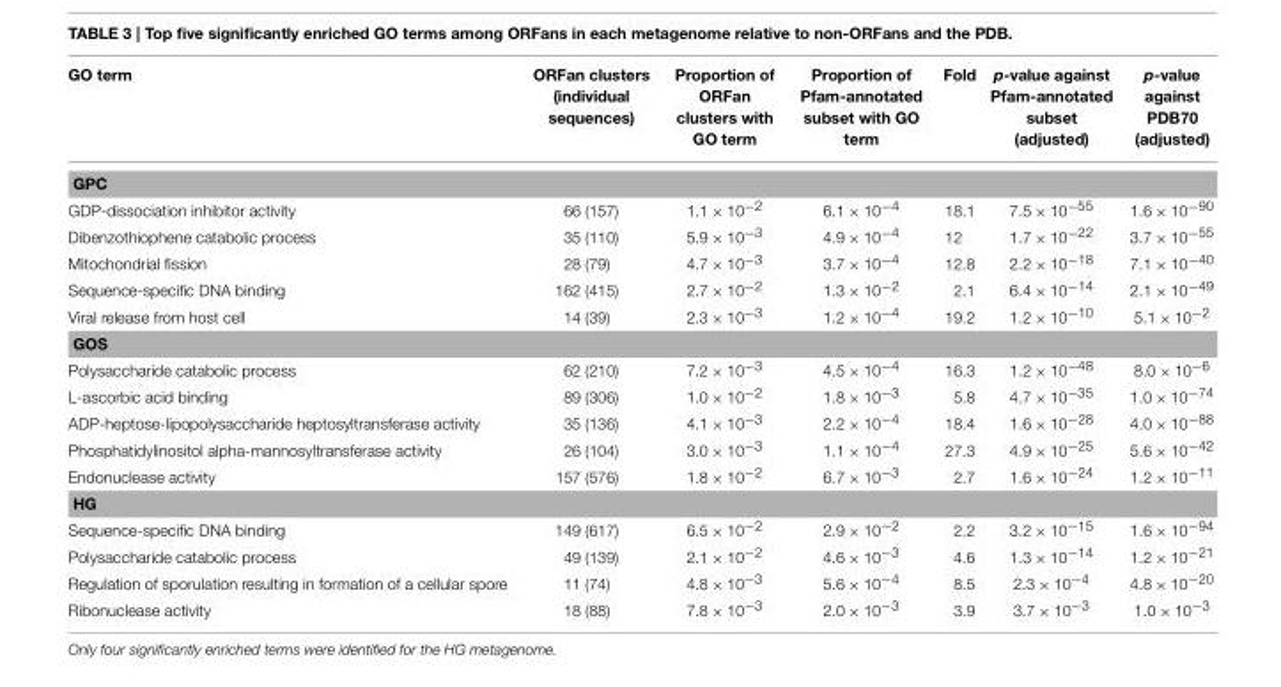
<table><thead><tr><td>GO term</td><td>ORFan clusters (individual sequences)</td><td>Proportion of ORFan clusters with GO term</td><td>Proportion of Pfam-annotated subset with GO term</td><td>Fold</td><td>p-value against Pfam-annotated subset (adjusted)</td><td>p-value against PDB70 (adjusted)</td></tr></thead><tbody><tr><td colspan="7">GPC</td></tr><tr><td>GDP-dissociation inhibitor activity</td><td>66 (157)</td><td>1.1 × 10<sup>−2</sup></td><td>6.1 × 10<sup>−4</sup></td><td>18.1</td><td>7.5 × 10<sup>−55</sup></td><td>1.6 × 10<sup>−90</sup></td></tr><tr><td>Dibenzothiophene catabolic process</td><td>35 (110)</td><td>5.9 × 10<sup>−3</sup></td><td>4.9 × 10<sup>−4</sup></td><td>12</td><td>1.7 × 10<sup>−22</sup></td><td>3.7 × 10<sup>−55</sup></td></tr><tr><td>Mitochondrial fission</td><td>28 (79)</td><td>4.7 × 10<sup>−3</sup></td><td>3.7 × 10<sup>−4</sup></td><td>12.8</td><td>2.2 × 10<sup>−18</sup></td><td>7.1 × 10<sup>−40</sup></td></tr><tr><td>Sequence-specific DNA binding</td><td>162 (415)</td><td>2.7 × 10<sup>−2</sup></td><td>1.3 × 10<sup>−2</sup></td><td>2.1</td><td>6.4 × 10<sup>−14</sup></td><td>2.1 × 10<sup>−49</sup></td></tr><tr><td>Viral release from host cell</td><td>14 (39)</td><td>2.3 × 10<sup>−3</sup></td><td>1.2 × 10<sup>−4</sup></td><td>19.2</td><td>1.2 × 10<sup>−10</sup></td><td>5.1 × 10<sup>−2</sup></td></tr><tr><td colspan="7">GOS</td></tr><tr><td>Polysaccharide catabolic process</td><td>62 (210)</td><td>7.2 × 10<sup>−3</sup></td><td>4.5 × 10<sup>−4</sup></td><td>16.3</td><td>1.2 × 10<sup>−48</sup></td><td>8.0 × 10<sup>−6</sup></td></tr><tr><td>L-ascorbic acid binding</td><td>89 (306)</td><td>1.0 × 10<sup>−2</sup></td><td>1.8 × 10<sup>−3</sup></td><td>5.8</td><td>4.7 × 10<sup>−35</sup></td><td>1.0 × 10<sup>−74</sup></td></tr><tr><td>ADP-heptose-lipopolysaccharide heptosyltransferase activity</td><td>35 (136)</td><td>4.1 × 10<sup>−3</sup></td><td>2.2 × 10<sup>−4</sup></td><td>18.4</td><td>1.6 × 10<sup>−28</sup></td><td>4.0 × 10<sup>−88</sup></td></tr><tr><td>Phosphatidylinositol alpha-mannosyltransferase activity</td><td>26 (104)</td><td>3.0 × 10<sup>−3</sup></td><td>1.1 × 10<sup>−4</sup></td><td>27.3</td><td>4.9 × 10<sup>−25</sup></td><td>5.6 × 10<sup>−42</sup></td></tr><tr><td>Endonuclease activity</td><td>157 (576)</td><td>1.8 × 10<sup>−2</sup></td><td>6.7 × 10<sup>−3</sup></td><td>2.7</td><td>1.6 × 10<sup>−24</sup></td><td>1.2 × 10<sup>−11</sup></td></tr><tr><td colspan="7">HG</td></tr><tr><td>Sequence-specific DNA binding</td><td>149 (617)</td><td>6.5 × 10<sup>−2</sup></td><td>2.9 × 10<sup>−2</sup></td><td>2.2</td><td>3.2 × 10<sup>−15</sup></td><td>1.6 × 10<sup>−94</sup></td></tr><tr><td>Polysaccharide catabolic process</td><td>49 (139)</td><td>2.1 × 10<sup>−2</sup></td><td>4.6 × 10<sup>−3</sup></td><td>4.6</td><td>1.3 × 10<sup>−14</sup></td><td>1.2 × 10<sup>−21</sup></td></tr><tr><td>Regulation of sporulation resulting in formation of a cellular spore</td><td>11 (74)</td><td>4.8 × 10<sup>−3</sup></td><td>5.6 × 10<sup>−4</sup></td><td>8.5</td><td>2.3 × 10<sup>−4</sup></td><td>4.8 × 10<sup>−20</sup></td></tr><tr><td>Ribonuclease activity</td><td>18 (88)</td><td>7.8 × 10<sup>−3</sup></td><td>2.0 × 10<sup>−3</sup></td><td>3.9</td><td>3.7 × 10<sup>−3</sup></td><td>1.0 × 10<sup>−3</sup></td></tr></tbody></table>